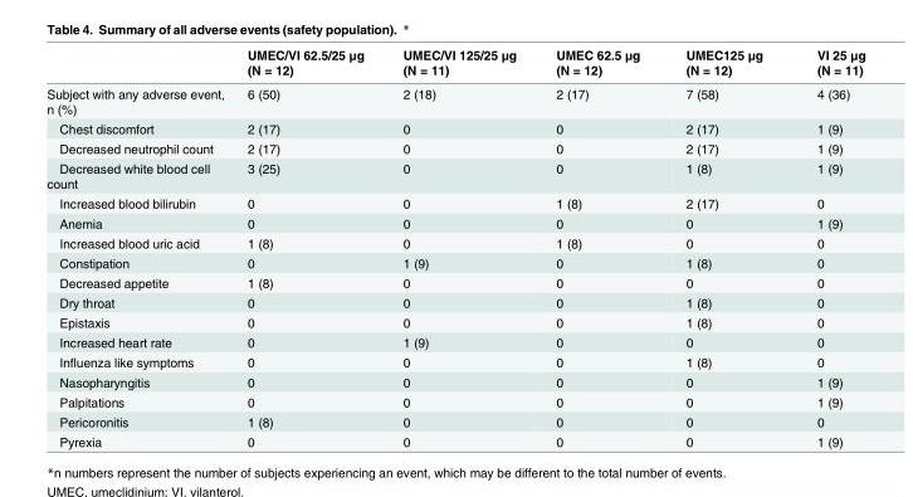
<table><thead><tr><td></td><td>UMEC/VI 62.5/25 μg (N = 12)</td><td>UMEC/VI 125/25 μg (N = 11)</td><td>UMEC 62.5 μg (N = 12)</td><td>UMEC125 μg (N = 12)</td><td>VI 25 μg (N = 11)</td></tr></thead><tbody><tr><td>Subject with any adverse event, n (%)</td><td>6 (50)</td><td>2 (18)</td><td>2 (17)</td><td>7 (58)</td><td>4 (36)</td></tr><tr><td>Chest discomfort</td><td>2 (17)</td><td>0</td><td>0</td><td>2 (17)</td><td>1 (9)</td></tr><tr><td>Decreased neutrophil count</td><td>2 (17)</td><td>0</td><td>0</td><td>2 (17)</td><td>1 (9)</td></tr><tr><td>Decreased white blood cell count</td><td>3 (25)</td><td>0</td><td>0</td><td>1 (8)</td><td>1 (9)</td></tr><tr><td>Increased blood bilirubin</td><td>0</td><td>0</td><td>1 (8)</td><td>2 (17)</td><td>0</td></tr><tr><td>Anemia</td><td>0</td><td>0</td><td>0</td><td>0</td><td>1 (9)</td></tr><tr><td>Increased blood uric acid</td><td>1 (8)</td><td>0</td><td>1 (8)</td><td>0</td><td>0</td></tr><tr><td>Constipation</td><td>0</td><td>1 (9)</td><td>0</td><td>1 (8)</td><td>0</td></tr><tr><td>Decreased appetite</td><td>1 (8)</td><td>0</td><td>0</td><td>0</td><td>0</td></tr><tr><td>Dry throat</td><td>0</td><td>0</td><td>0</td><td>1 (8)</td><td>0</td></tr><tr><td>Epistaxis</td><td>0</td><td>0</td><td>0</td><td>1 (8)</td><td>0</td></tr><tr><td>Increased heart rate</td><td>0</td><td>1 (9)</td><td>0</td><td>0</td><td>0</td></tr><tr><td>Influenza like symptoms</td><td>0</td><td>0</td><td>0</td><td>1 (8)</td><td>0</td></tr><tr><td>Nasopharyngitis</td><td>0</td><td>0</td><td>0</td><td>0</td><td>1 (9)</td></tr><tr><td>Palpitations</td><td>0</td><td>0</td><td>0</td><td>0</td><td>1 (9)</td></tr><tr><td>Pericoronitis</td><td>1 (8)</td><td>0</td><td>0</td><td>0</td><td>0</td></tr><tr><td>Pyrexia</td><td>0</td><td>0</td><td>0</td><td>0</td><td>1 (9)</td></tr></tbody></table>